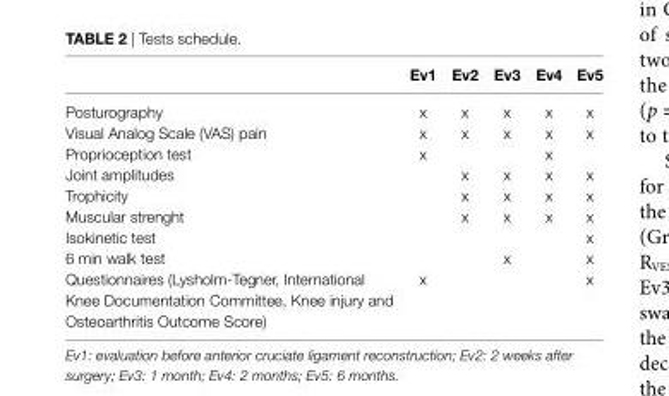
<table><thead><tr><td></td><td>ev1</td><td>ev2</td><td>ev3</td><td>ev4</td><td>ev5</td></tr></thead><tbody><tr><td>Posturography</td><td>x</td><td>x</td><td>x</td><td>x</td><td>x</td></tr><tr><td>Visual Analog Scale (VAS) pain</td><td>x</td><td>x</td><td>x</td><td>x</td><td>x</td></tr><tr><td>Proprioception test</td><td>x</td><td></td><td></td><td>x</td><td></td></tr><tr><td>Joint amplitudes</td><td></td><td>x</td><td>x</td><td>x</td><td>x</td></tr><tr><td>Trophicity</td><td></td><td>x</td><td>x</td><td>x</td><td>x</td></tr><tr><td>Muscular strenght</td><td></td><td>x</td><td>x</td><td>x</td><td>x</td></tr><tr><td>Isokinetic test</td><td></td><td></td><td></td><td></td><td>x</td></tr><tr><td>6 min walk test</td><td></td><td></td><td>x</td><td></td><td>x</td></tr><tr><td>Questionnaires (Lysholm-Tegner, International Knee Documentation Committee, Knee injury and Osteoarthritis Outcome Score)</td><td>x</td><td></td><td></td><td></td><td>x</td></tr></tbody></table>